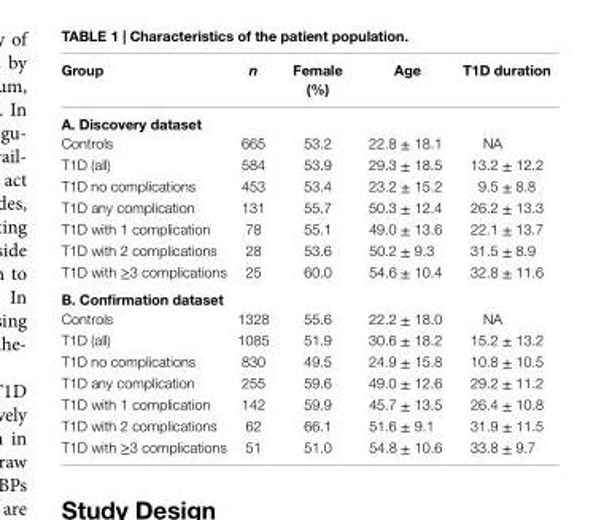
<table><thead><tr><td>group</td><td>n</td><td>Female (%)</td><td>age</td><td>T1D duration</td></tr></thead><tbody><tr><td colspan="5">a. Discovery dataset</td></tr><tr><td>Controls</td><td>665</td><td>53.2</td><td>22.8 ± 18.1</td><td>NA</td></tr><tr><td>T1D (all)</td><td>584</td><td>53.9</td><td>29.3 ± 18.5</td><td>13.2 ± 12.2</td></tr><tr><td>T1D no complications</td><td>453</td><td>53.4</td><td>23.2 ± 15.2</td><td>9.5 ± 8.8</td></tr><tr><td>T1D any complication</td><td>131</td><td>55.7</td><td>50.3 ± 12.4</td><td>26.2 ± 13.3</td></tr><tr><td>T1D with 1 complication</td><td>78</td><td>55.1</td><td>49.0 ± 13.6</td><td>22.1 ± 13.7</td></tr><tr><td>T1D with 2 complications</td><td>28</td><td>53.6</td><td>50.2 ± 9.3</td><td>31.5 ± 8.9</td></tr><tr><td>T1D with ≥3 complications</td><td>25</td><td>60.0</td><td>54.6 ± 10.4</td><td>32.8 ± 11.6</td></tr><tr><td colspan="5">B. confirmation dataset</td></tr><tr><td>Controls</td><td>1328</td><td>55.6</td><td>22.2 ± 18.0</td><td>NA</td></tr><tr><td>T1D (all)</td><td>1085</td><td>51.9</td><td>30.6 ± 18.2</td><td>15.2 ± 13.2</td></tr><tr><td>T1D no complications</td><td>830</td><td>49.5</td><td>24.9 ± 15.8</td><td>10.8 ± 10.5</td></tr><tr><td>T1D any complication</td><td>255</td><td>59.6</td><td>49.0 ± 12.6</td><td>29.2 ± 11.2</td></tr><tr><td>T1D with 1 complication</td><td>142</td><td>59.9</td><td>45.7 ± 13.5</td><td>26.4 ± 10.8</td></tr><tr><td>T1D with 2 complications</td><td>62</td><td>66.1</td><td>51.6 ± 9.1</td><td>31.9 ± 11.5</td></tr><tr><td>T1D with ≥3 complications</td><td>51</td><td>51.0</td><td>54.8 ± 10.6</td><td>33.8 ± 9.7</td></tr></tbody></table>